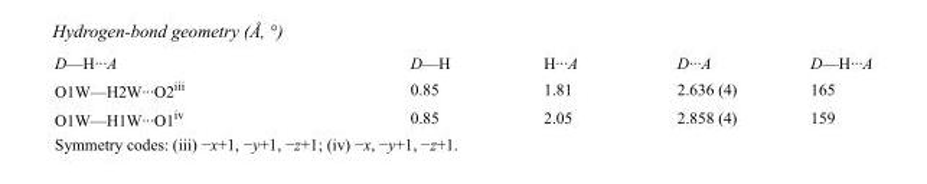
<table><tbody><tr><td>D—H···A</td><td>D—H</td><td>H···A</td><td>D···A</td><td>D—H···A</td></tr><tr><td>O1W—H2W···O2<sup>iii</sup></td><td>0.85</td><td>1.81</td><td>2.636 (4)</td><td>165</td></tr><tr><td>O1W—H1W···O1<sup>iv</sup></td><td>0.85</td><td>2.05</td><td>2.858 (4)</td><td>159</td></tr></tbody></table>